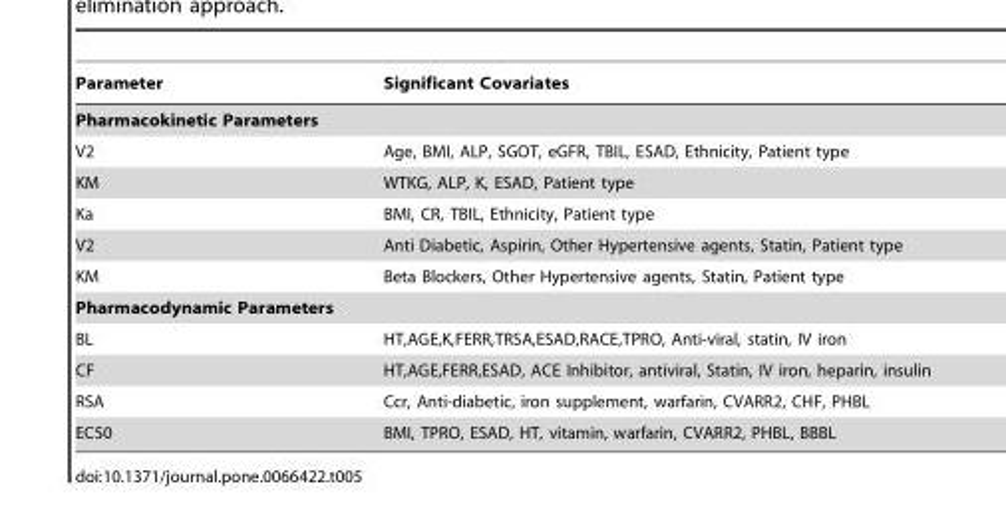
<table><thead><tr><td>Parameter</td><td>Significant Covariates</td></tr></thead><tbody><tr><td colspan="2">Pharmacokinetic Parameters</td></tr><tr><td>V2</td><td>Age, BMI, ALP, SGOT, eGFR, TBIL, ESAD, Ethnicity, Patient type</td></tr><tr><td>KM</td><td>WTKG, ALP, K, ESAD, Patient type</td></tr><tr><td>Ka</td><td>BMI, CR, TBIL, Ethnicity, Patient type</td></tr><tr><td>V2</td><td>Anti Diabetic, Aspirin, Other Hypertensive agents, Statin, Patient type</td></tr><tr><td>KM</td><td>Beta Blockers, Other Hypertensive agents, Statin, Patient type</td></tr><tr><td colspan="2">Pharmacodynamic Parameters</td></tr><tr><td>BL</td><td>HT,AGE,K,FERR,TRSA,ESAD,RACE,TPRO, Anti-viral, statin, IV iron</td></tr><tr><td>CF</td><td>HT,AGE,FERR,ESAD, ACE Inhibitor, antiviral, Statin, IV iron, heparin, insulin</td></tr><tr><td>RSA</td><td>Ccr, Anti-diabetic, iron supplement, warfarin, CVARR2, CHF, PHBL</td></tr><tr><td>EC50</td><td>BMI, TPRO, ESAD, HT, vitamin, warfarin, CVARR2, PHBL, BBBL</td></tr></tbody></table>